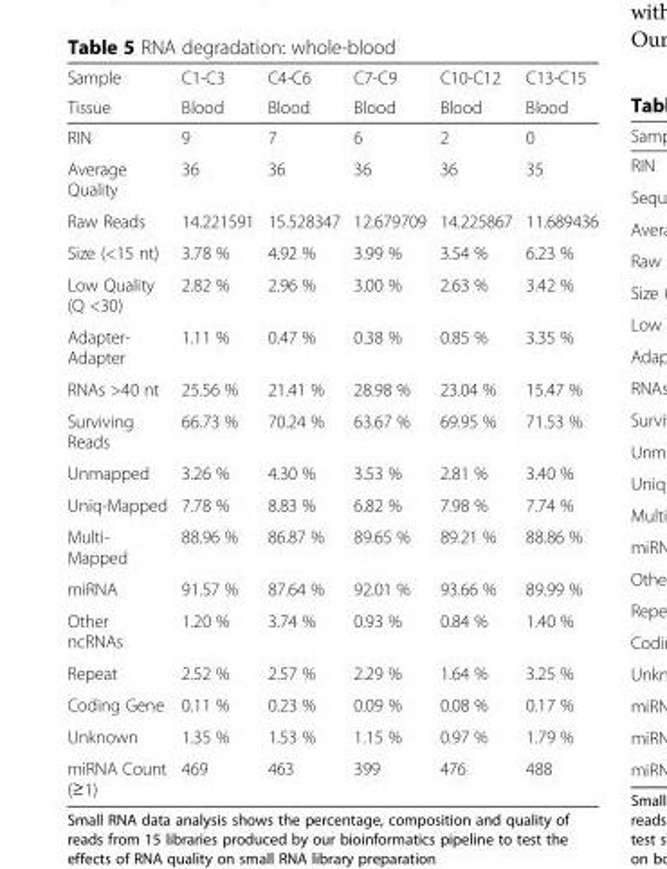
<table><thead><tr><td rowspan="2">Sample Tissue</td><td rowspan="2">C1-C3 Blood</td><td rowspan="2">C4-C6 Blood</td><td rowspan="2">C7-C9 Blood</td><td rowspan="2">C10-C12 Blood</td><td rowspan="2">C13-C15 Blood</td></tr><tr></tr></thead><tbody><tr><td>RIN</td><td>9</td><td>7</td><td>6</td><td>2</td><td>0</td></tr><tr><td>Average Quality</td><td>36</td><td>36</td><td>36</td><td>36</td><td>35</td></tr><tr><td>Raw Reads</td><td>14.221591</td><td>15.528347</td><td>12.679709</td><td>14.225867</td><td>11.689436</td></tr><tr><td>Size (&lt;15 nt)</td><td>3.78 %</td><td>4.92 %</td><td>3.99 %</td><td>3.54 %</td><td>6.23 %</td></tr><tr><td>Low Quality (Q &lt;30)</td><td>2.82 %</td><td>2.96 %</td><td>3.00 %</td><td>2.63 %</td><td>3.42 %</td></tr><tr><td>Adapter- Adapter</td><td>1.11 %</td><td>0.47 %</td><td>0.38 %</td><td>0.85 %</td><td>3.35 %</td></tr><tr><td>RNAs &gt;40 nt</td><td>25.56 %</td><td>21.41 %</td><td>28.98 %</td><td>23.04 %</td><td>15.47 %</td></tr><tr><td>Surviving Reads</td><td>66.73 %</td><td>70.24 %</td><td>63.67 %</td><td>69.95 %</td><td>71.53 %</td></tr><tr><td>Unmapped</td><td>3.26 %</td><td>4.30 %</td><td>3.53 %</td><td>2.81 %</td><td>3.40 %</td></tr><tr><td>Uniq-Mapped</td><td>7.78 %</td><td>8.83 %</td><td>6.82 %</td><td>7.98 %</td><td>7.74 %</td></tr><tr><td>Multi- Mapped</td><td>88.96 %</td><td>86.87 %</td><td>89.65 %</td><td>89.21 %</td><td>88.86 %</td></tr><tr><td>miRNA</td><td>91.57 %</td><td>87.64 %</td><td>92.01 %</td><td>93.66 %</td><td>89.99 %</td></tr><tr><td>Other ncRNAs</td><td>1.20 %</td><td>3.74 %</td><td>0.93 %</td><td>0.84 %</td><td>1.40 %</td></tr><tr><td>Repeat</td><td>2.52 %</td><td>2.57 %</td><td>2.29 %</td><td>1.64 %</td><td>3.25 %</td></tr><tr><td>Coding Gene</td><td>0.11 %</td><td>0.23 %</td><td>0.09 %</td><td>0.08 %</td><td>0.17 %</td></tr><tr><td>Unknown</td><td>1.35 %</td><td>1.53 %</td><td>1.15 %</td><td>0.97 %</td><td>1.79 %</td></tr><tr><td>miRNA Count (≥1)</td><td>469</td><td>463</td><td>399</td><td>476</td><td>488</td></tr></tbody></table>